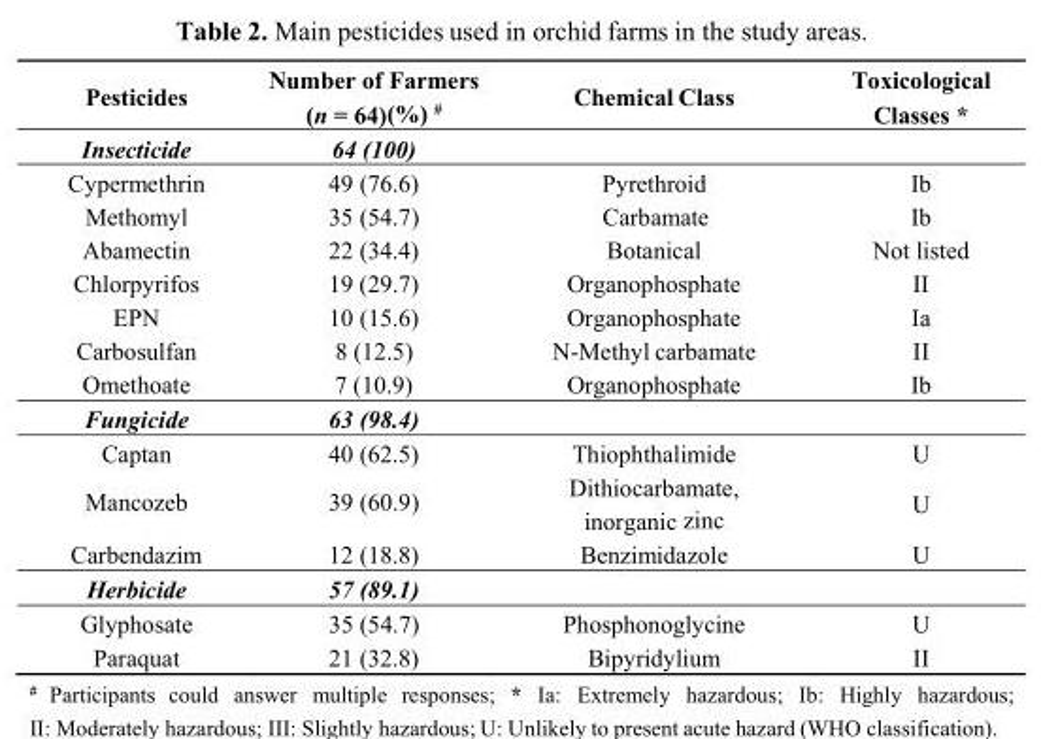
<table><thead><tr><td>Pesticides</td><td>Number of Farmers (n = 64)(%) <sup>#</sup></td><td>Chemical Class</td><td>Toxicological Classes *</td></tr></thead><tbody><tr><td>Insecticide</td><td>64 (100)</td><td></td><td></td></tr><tr><td>Cypermethrin</td><td>49 (76.6)</td><td>Pyrethroid</td><td>Ib</td></tr><tr><td>Methomyl</td><td>35 (54.7)</td><td>Carbamate</td><td>Ib</td></tr><tr><td>Abamectin</td><td>22 (34.4)</td><td>Botanical</td><td>Not listed</td></tr><tr><td>Chlorpyrifos</td><td>19 (29.7)</td><td>Organophosphate</td><td>II</td></tr><tr><td>EPN</td><td>10 (15.6)</td><td>Organophosphate</td><td>Ia</td></tr><tr><td>Carbosulfan</td><td>8 (12.5)</td><td>N-Methyl carbamate</td><td>II</td></tr><tr><td>Omethoate</td><td>7 (10.9)</td><td>Organophosphate</td><td>Ib</td></tr><tr><td>Fungicide</td><td>63 (98.4)</td><td></td><td></td></tr><tr><td>Captan</td><td>40 (62.5)</td><td>Thiophthalimide</td><td>U</td></tr><tr><td>Mancozeb</td><td>39 (60.9)</td><td>Dithiocarbamate, inorganic zinc</td><td>U</td></tr><tr><td>Carbendazim</td><td>12 (18.8)</td><td>Benzimidazole</td><td>U</td></tr><tr><td>Herbicide</td><td>57 (89.1)</td><td></td><td></td></tr><tr><td>Glyphosate</td><td>35 (54.7)</td><td>Phosphonoglycine</td><td>U</td></tr><tr><td>Paraquat</td><td>21 (32.8)</td><td>Bipyridylium</td><td>II</td></tr></tbody></table>